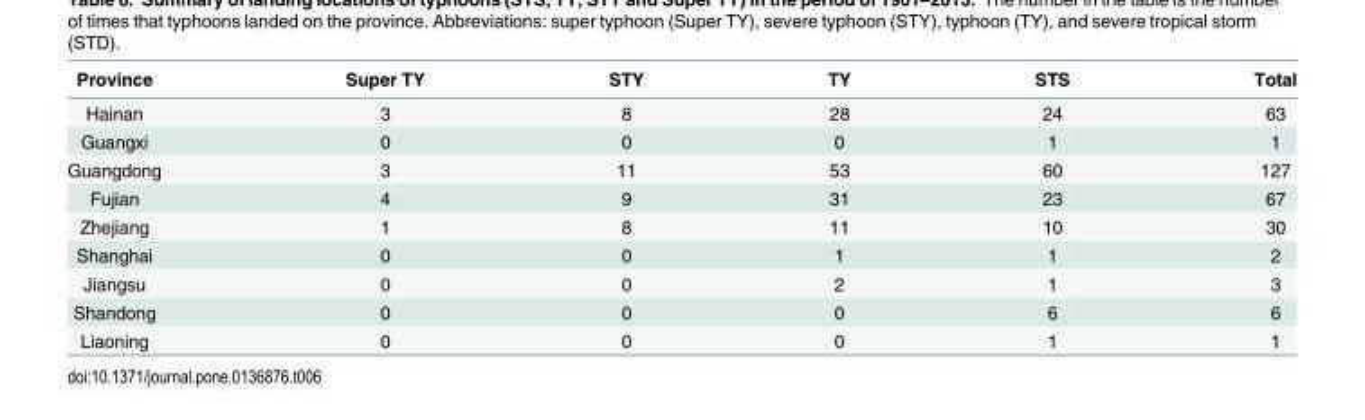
<table><thead><tr><td>Province</td><td>Super TY</td><td>STY</td><td>TY</td><td>STS</td><td>Total</td></tr></thead><tbody><tr><td>Hainan</td><td>3</td><td>8</td><td>28</td><td>24</td><td>63</td></tr><tr><td>Guangxi</td><td>0</td><td>0</td><td>0</td><td>1</td><td>1</td></tr><tr><td>Guangdong</td><td>3</td><td>11</td><td>53</td><td>60</td><td>127</td></tr><tr><td>Fujian</td><td>4</td><td>9</td><td>31</td><td>23</td><td>67</td></tr><tr><td>Zhejiang</td><td>1</td><td>8</td><td>11</td><td>10</td><td>30</td></tr><tr><td>Shanghai</td><td>0</td><td>0</td><td>1</td><td>1</td><td>2</td></tr><tr><td>Jiangsu</td><td>0</td><td>0</td><td>2</td><td>1</td><td>3</td></tr><tr><td>Shandong</td><td>0</td><td>0</td><td>0</td><td>6</td><td>6</td></tr><tr><td>Liaoning</td><td>0</td><td>0</td><td>0</td><td>1</td><td>1</td></tr></tbody></table>